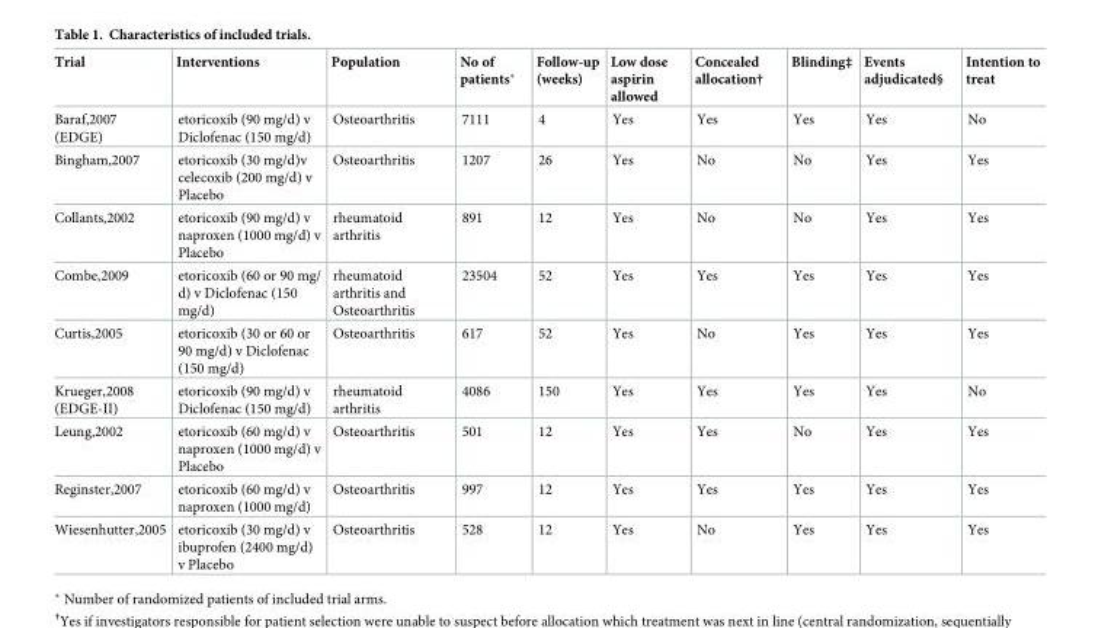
<table><thead><tr><td>Trial</td><td>Interventions</td><td>Population</td><td>No of patients*</td><td>Follow-up (weeks)</td><td>Low dose aspirin allowed</td><td>Concealed allocation†</td><td>Blinding‡</td><td>Events adjudicated§</td><td>Intention to treat</td></tr></thead><tbody><tr><td>Baraf,2007 (EDGE)</td><td>etoricoxib (90 mg/d) v Diclofenac (150 mg/d)</td><td>Osteoarthritis</td><td>7111</td><td>4</td><td>Yes</td><td>Yes</td><td>Yes</td><td>Yes</td><td>No</td></tr><tr><td>Bingham,2007</td><td>etoricoxib (30 mg/d)v celecoxib (200 mg/d) v Placebo</td><td>Osteoarthritis</td><td>1207</td><td>26</td><td>Yes</td><td>No</td><td>No</td><td>Yes</td><td>Yes</td></tr><tr><td>Collants,2002</td><td>etoricoxib (90 mg/d) v naproxen (1000 mg/d) v Placebo</td><td>rheumatoid arthritis</td><td>891</td><td>12</td><td>Yes</td><td>No</td><td>No</td><td>Yes</td><td>Yes</td></tr><tr><td>Combe,2009</td><td>etoricoxib (60 or 90 mg/ d) v Diclofenac (150 mg/d)</td><td>rheumatoid arthritis and Osteoarthritis</td><td>23504</td><td>52</td><td>Yes</td><td>Yes</td><td>Yes</td><td>Yes</td><td>Yes</td></tr><tr><td>Curtis,2005</td><td>etoricoxib (30 or 60 or 90 mg/d) v Diclofenac (150 mg/d)</td><td>Osteoarthritis</td><td>617</td><td>52</td><td>Yes</td><td>No</td><td>Yes</td><td>Yes</td><td>Yes</td></tr><tr><td>Krueger,2008 (EDGE-II)</td><td>etoricoxib (90 mg/d) v Diclofenac (150 mg/d)</td><td>rheumatoid arthritis</td><td>4086</td><td>150</td><td>Yes</td><td>Yes</td><td>Yes</td><td>Yes</td><td>No</td></tr><tr><td>Leung,2002</td><td>etoricoxib (60 mg/d) v naproxen (1000 mg/d) v Placebo</td><td>Osteoarthritis</td><td>501</td><td>12</td><td>Yes</td><td>Yes</td><td>No</td><td>Yes</td><td>Yes</td></tr><tr><td>Reginster,2007</td><td>etoricoxib (60 mg/d) v naproxen (1000 mg/d)</td><td>Osteoarthritis</td><td>997</td><td>12</td><td>Yes</td><td>Yes</td><td>Yes</td><td>Yes</td><td>Yes</td></tr><tr><td>Wiesenhutter,2005</td><td>etoricoxib (30 mg/d) v ibuprofen (2400 mg/d) v Placebo</td><td>Osteoarthritis</td><td>528</td><td>12</td><td>Yes</td><td>No</td><td>Yes</td><td>Yes</td><td>Yes</td></tr></tbody></table>